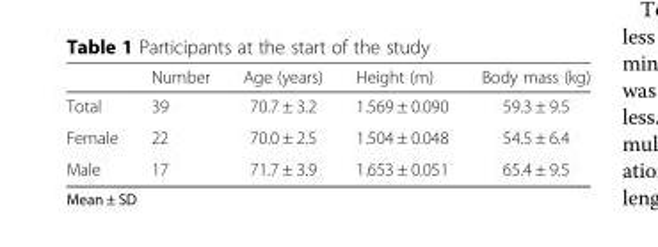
<table><thead><tr><td></td><td>Number</td><td>Age (years)</td><td>Height (m)</td><td>Body mass (kg)</td></tr></thead><tbody><tr><td>Total</td><td>39</td><td>70.7 ± 3.2</td><td>1.569 ± 0.090</td><td>59.3 ± 9.5</td></tr><tr><td>Female</td><td>22</td><td>70.0 ± 2.5</td><td>1.504 ± 0.048</td><td>54.5 ± 6.4</td></tr><tr><td>Male</td><td>17</td><td>71.7 ± 3.9</td><td>1.653 ± 0.051</td><td>65.4 ± 9.5</td></tr></tbody></table>